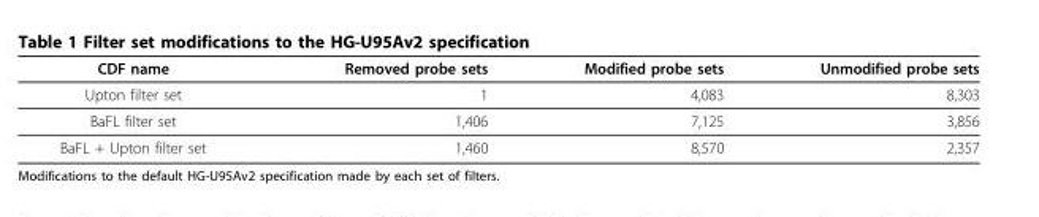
<table><thead><tr><td>CDF name</td><td>Removed probe sets</td><td>Modified probe sets</td><td>Unmodified probe sets</td></tr></thead><tbody><tr><td>Upton filter set</td><td>1</td><td>4,083</td><td>8,303</td></tr><tr><td>BaFL filter set</td><td>1,406</td><td>7,125</td><td>3,856</td></tr><tr><td>BaFL + Upton filter set</td><td>1,460</td><td>8,570</td><td>2,357</td></tr></tbody></table>